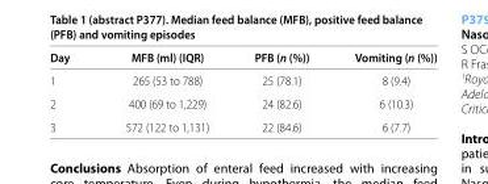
<table><thead><tr><td>Day</td><td>MFB (ml) (IQR)</td><td>PFB (n (%))</td><td>Vomiting (n (%))</td></tr></thead><tbody><tr><td>1</td><td>265 (53 to 788)</td><td>25 (78.1)</td><td>8 (9.4)</td></tr><tr><td>2</td><td>400 (69 to 1,229)</td><td>24 (82.6)</td><td>6 (10.3)</td></tr><tr><td>3</td><td>572 (122 to 1,131)</td><td>22 (84.6)</td><td>6 (7.7)</td></tr></tbody></table>